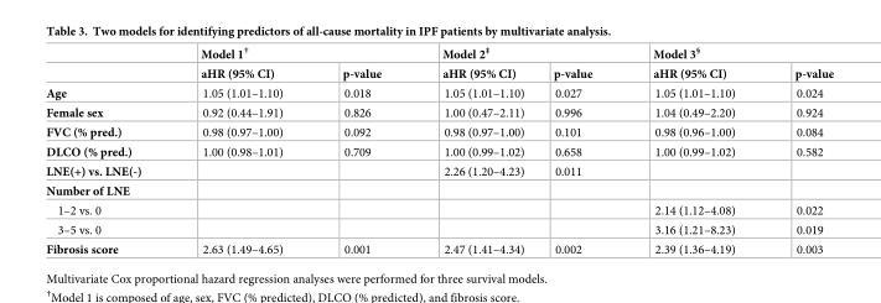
<table><thead><tr><td rowspan="2"></td><td colspan="2">Model 1<sup>†</sup></td><td colspan="2">Model 2<sup>‡</sup></td><td colspan="2">Model 3<sup>§</sup></td></tr><tr><td>aHR (95% CI)</td><td>p-value</td><td>aHR (95% CI)</td><td>p-value</td><td>aHR (95% CI)</td><td>p-value</td></tr></thead><tbody><tr><td>Age</td><td>1.05 (1.01–1.10)</td><td>0.018</td><td>1.05 (1.01–1.10)</td><td>0.027</td><td>1.05 (1.01–1.10)</td><td>0.024</td></tr><tr><td>Female sex</td><td>0.92 (0.44–1.91)</td><td>0.826</td><td>1.00 (0.47–2.11)</td><td>0.996</td><td>1.04 (0.49–2.20)</td><td>0.924</td></tr><tr><td>FVC (% pred.)</td><td>0.98 (0.97–1.00)</td><td>0.092</td><td>0.98 (0.97–1.00)</td><td>0.101</td><td>0.98 (0.96–1.00)</td><td>0.084</td></tr><tr><td>DLCO (% pred.)</td><td>1.00 (0.98–1.01)</td><td>0.709</td><td>1.00 (0.99–1.02)</td><td>0.658</td><td>1.00 (0.99–1.02)</td><td>0.582</td></tr><tr><td>LNE(+) vs. LNE(-)</td><td></td><td></td><td>2.26 (1.20–4.23)</td><td>0.011</td><td></td><td></td></tr><tr><td colspan="7">Number of LNE</td></tr><tr><td>1–2 vs. 0</td><td></td><td></td><td></td><td></td><td>2.14 (1.12–4.08)</td><td>0.022</td></tr><tr><td>3–5 vs. 0</td><td></td><td></td><td></td><td></td><td>3.16 (1.21–8.23)</td><td>0.019</td></tr><tr><td>Fibrosis score</td><td>2.63 (1.49–4.65)</td><td>0.001</td><td>2.47 (1.41–4.34)</td><td>0.002</td><td>2.39 (1.36–4.19)</td><td>0.003</td></tr></tbody></table>